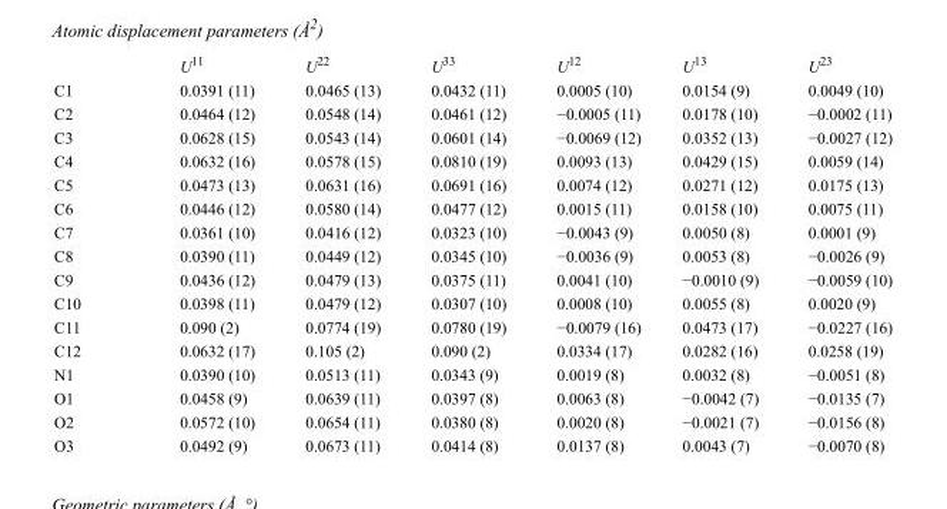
<table><thead><tr><td></td><td>U<sup>11</sup></td><td>U<sup>22</sup></td><td>U<sup>33</sup></td><td>U<sup>12</sup></td><td>U<sup>13</sup></td><td>U<sup>23</sup></td></tr></thead><tbody><tr><td>C1</td><td>0.0391 (11)</td><td>0.0465 (13)</td><td>0.0432 (11)</td><td>0.0005 (10)</td><td>0.0154 (9)</td><td>0.0049 (10)</td></tr><tr><td>C2</td><td>0.0464 (12)</td><td>0.0548 (14)</td><td>0.0461 (12)</td><td>−0.0005 (11)</td><td>0.0178 (10)</td><td>−0.0002 (11)</td></tr><tr><td>C3</td><td>0.0628 (15)</td><td>0.0543 (14)</td><td>0.0601 (14)</td><td>−0.0069 (12)</td><td>0.0352 (13)</td><td>−0.0027 (12)</td></tr><tr><td>C4</td><td>0.0632 (16)</td><td>0.0578 (15)</td><td>0.0810 (19)</td><td>0.0093 (13)</td><td>0.0429 (15)</td><td>0.0059 (14)</td></tr><tr><td>C5</td><td>0.0473 (13)</td><td>0.0631 (16)</td><td>0.0691 (16)</td><td>0.0074 (12)</td><td>0.0271 (12)</td><td>0.0175 (13)</td></tr><tr><td>C6</td><td>0.0446 (12)</td><td>0.0580 (14)</td><td>0.0477 (12)</td><td>0.0015 (11)</td><td>0.0158 (10)</td><td>0.0075 (11)</td></tr><tr><td>C7</td><td>0.0361 (10)</td><td>0.0416 (12)</td><td>0.0323 (10)</td><td>−0.0043 (9)</td><td>0.0050 (8)</td><td>0.0001 (9)</td></tr><tr><td>C8</td><td>0.0390 (11)</td><td>0.0449 (12)</td><td>0.0345 (10)</td><td>−0.0036 (9)</td><td>0.0053 (8)</td><td>−0.0026 (9)</td></tr><tr><td>C9</td><td>0.0436 (12)</td><td>0.0479 (13)</td><td>0.0375 (11)</td><td>0.0041 (10)</td><td>−0.0010 (9)</td><td>−0.0059 (10)</td></tr><tr><td>C10</td><td>0.0398 (11)</td><td>0.0479 (12)</td><td>0.0307 (10)</td><td>0.0008 (10)</td><td>0.0055 (8)</td><td>0.0020 (9)</td></tr><tr><td>C11</td><td>0.090 (2)</td><td>0.0774 (19)</td><td>0.0780 (19)</td><td>−0.0079 (16)</td><td>0.0473 (17)</td><td>−0.0227 (16)</td></tr><tr><td>C12</td><td>0.0632 (17)</td><td>0.105 (2)</td><td>0.090 (2)</td><td>0.0334 (17)</td><td>0.0282 (16)</td><td>0.0258 (19)</td></tr><tr><td>N1</td><td>0.0390 (10)</td><td>0.0513 (11)</td><td>0.0343 (9)</td><td>0.0019 (8)</td><td>0.0032 (8)</td><td>−0.0051 (8)</td></tr><tr><td>O1</td><td>0.0458 (9)</td><td>0.0639 (11)</td><td>0.0397 (8)</td><td>0.0063 (8)</td><td>−0.0042 (7)</td><td>−0.0135 (7)</td></tr><tr><td>O2</td><td>0.0572 (10)</td><td>0.0654 (11)</td><td>0.0380 (8)</td><td>0.0020 (8)</td><td>−0.0021 (7)</td><td>−0.0156 (8)</td></tr><tr><td>O3</td><td>0.0492 (9)</td><td>0.0673 (11)</td><td>0.0414 (8)</td><td>0.0137 (8)</td><td>0.0043 (7)</td><td>−0.0070 (8)</td></tr></tbody></table>